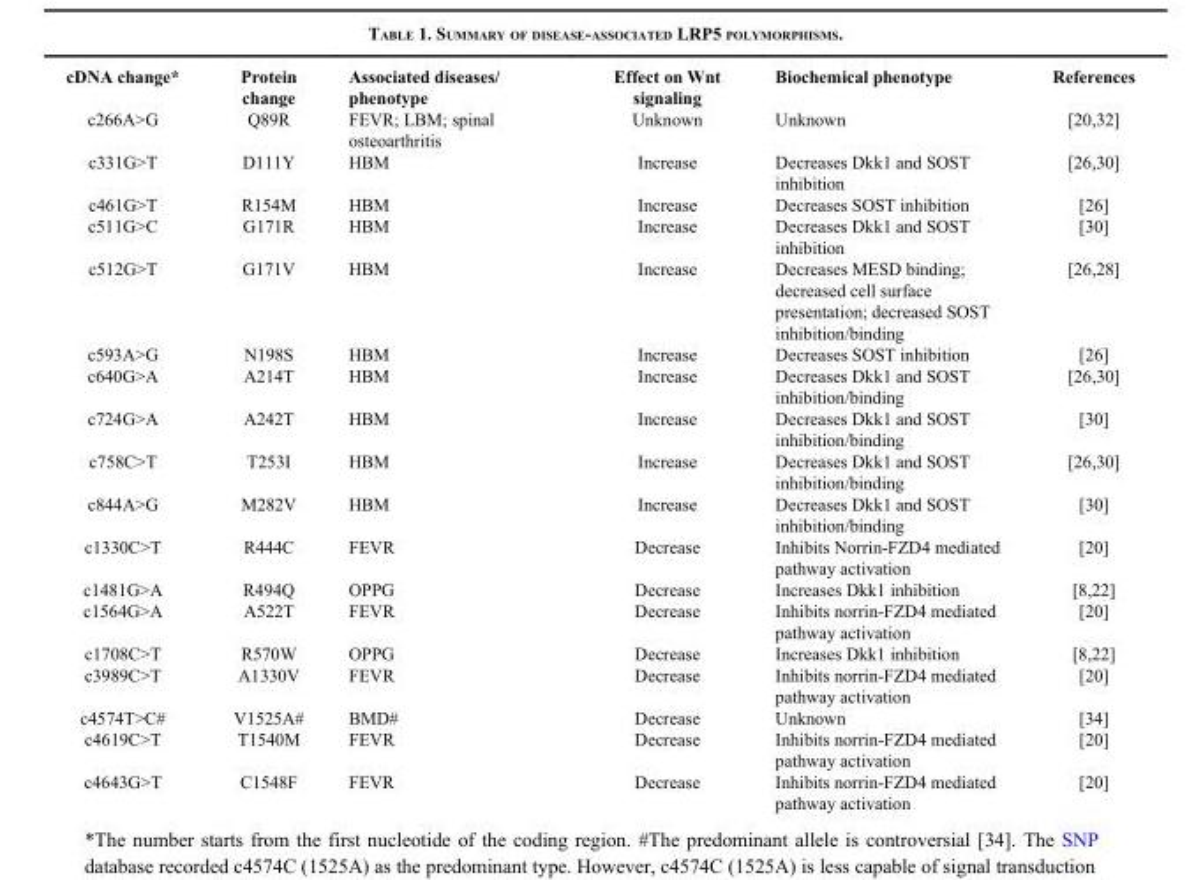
<table><thead><tr><td>cDNA change*</td><td>Protein change</td><td>Associated diseases/ phenotype</td><td>Effect on Wnt signaling</td><td>Biochemical phenotype</td><td>References</td></tr></thead><tbody><tr><td>c266A&gt;G</td><td>Q89R</td><td>FEVR; LBM; spinal osteoarthritis</td><td>Unknown</td><td>Unknown</td><td>[20,32]</td></tr><tr><td>c331G&gt;T</td><td>D111Y</td><td>HBM</td><td>Increase</td><td>Decreases Dkk1 and SOST inhibition</td><td>[26,30]</td></tr><tr><td>c461G&gt;T</td><td>R154M</td><td>HBM</td><td>Increase</td><td>Decreases SOST inhibition</td><td>[26]</td></tr><tr><td>c511G&gt;C</td><td>G171R</td><td>HBM</td><td>Increase</td><td>Decreases Dkk1 and SOST inhibition</td><td>[30]</td></tr><tr><td>c512G&gt;T</td><td>G171V</td><td>HBM</td><td>Increase</td><td>Decreases MESD binding; decreased cell surface presentation; decreased SOST inhibition/binding</td><td>[26,28]</td></tr><tr><td>c593A&gt;G</td><td>N198S</td><td>HBM</td><td>Increase</td><td>Decreases SOST inhibition</td><td>[26]</td></tr><tr><td>c640G&gt;A</td><td>A214T</td><td>HBM</td><td>Increase</td><td>Decreases Dkk1 and SOST inhibition/binding</td><td>[26,30]</td></tr><tr><td>c724G&gt;A</td><td>A242T</td><td>HBM</td><td>Increase</td><td>Decreases Dkk1 and SOST inhibition/binding</td><td>[30]</td></tr><tr><td>c758C&gt;T</td><td>T253I</td><td>HBM</td><td>Increase</td><td>Decreases Dkk1 and SOST inhibition/binding</td><td>[26,30]</td></tr><tr><td>c844A&gt;G</td><td>M282V</td><td>HBM</td><td>Increase</td><td>Decreases Dkk1 and SOST inhibition/binding</td><td>[30]</td></tr><tr><td>c1330C&gt;T</td><td>R444C</td><td>FEVR</td><td>Decrease</td><td>Inhibits Norrin-FZD4 mediated pathway activation</td><td>[20]</td></tr><tr><td>c1481G&gt;A</td><td>R494Q</td><td>OPPG</td><td>Decrease</td><td>Increases Dkk1 inhibition</td><td>[8,22]</td></tr><tr><td>c1564G&gt;A</td><td>A522T</td><td>FEVR</td><td>Decrease</td><td>Inhibits norrin-FZD4 mediated pathway activation</td><td>[20]</td></tr><tr><td>c1708C&gt;T</td><td>R570W</td><td>OPPG</td><td>Decrease</td><td>Increases Dkk1 inhibition</td><td>[8,22]</td></tr><tr><td>c3989C&gt;T</td><td>A1330V</td><td>FEVR</td><td>Decrease</td><td>Inhibits norrin-FZD4 mediated pathway activation</td><td>[20]</td></tr><tr><td>c4574T&gt;C#</td><td>V1525A#</td><td>BMD#</td><td>Decrease</td><td>Unknown</td><td>[34]</td></tr><tr><td>c4619C&gt;T</td><td>T1540M</td><td>FEVR</td><td>Decrease</td><td>Inhibits norrin-FZD4 mediated pathway activation</td><td>[20]</td></tr><tr><td>c4643G&gt;T</td><td>C1548F</td><td>FEVR</td><td>Decrease</td><td>Inhibits norrin-FZD4 mediated pathway activation</td><td>[20]</td></tr></tbody></table>